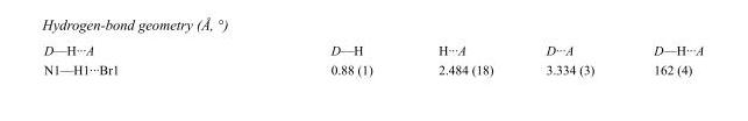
<table><tbody><tr><td>D—H···A</td><td>D—H</td><td>H···A</td><td>D···A</td><td>D—H···A</td></tr><tr><td>N1—H1···Br1</td><td>0.88 (1)</td><td>2.484 (18)</td><td>3.334 (3)</td><td>162 (4)</td></tr></tbody></table>